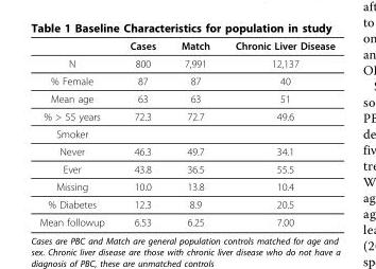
<table><thead><tr><td></td><td>Cases</td><td>Match</td><td>Chronic Liver Disease</td></tr></thead><tbody><tr><td>N</td><td>800</td><td>7,991</td><td>12,137</td></tr><tr><td>% Female</td><td>87</td><td>87</td><td>40</td></tr><tr><td>Mean age</td><td>63</td><td>63</td><td>51</td></tr><tr><td>% &gt; 55 years</td><td>72.3</td><td>72.7</td><td>49.6</td></tr><tr><td colspan="4">Smoker</td></tr><tr><td>Never</td><td>46.3</td><td>49.7</td><td>34.1</td></tr><tr><td>Ever</td><td>43.8</td><td>36.5</td><td>55.5</td></tr><tr><td>Missing</td><td>10.0</td><td>13.8</td><td>10.4</td></tr><tr><td>% Diabetes</td><td>12.3</td><td>8.9</td><td>20.5</td></tr><tr><td>Mean followup</td><td>6.53</td><td>6.25</td><td>7.00</td></tr></tbody></table>